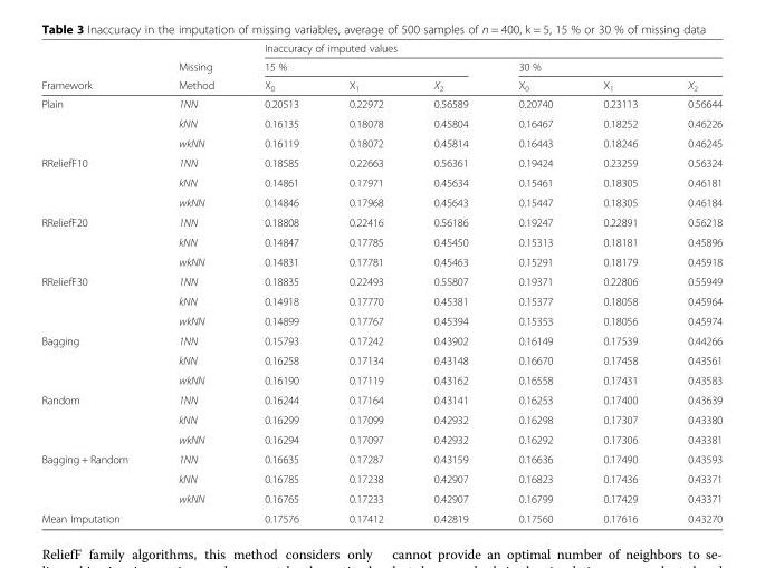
<table><thead><tr><td rowspan="3">Framework</td><td rowspan="3">Missing Method</td><td colspan="6">Inaccuracy of imputed values</td></tr><tr><td colspan="3">15 %</td><td colspan="3">30 %</td></tr><tr><td>X<sub>0</sub></td><td>X<sub>1</sub></td><td>X<sub>2</sub></td><td>X<sub>0</sub></td><td>X<sub>1</sub></td><td>X<sub>2</sub></td></tr></thead><tbody><tr><td rowspan="3">Plain</td><td>1NN</td><td>0.20513</td><td>0.22972</td><td>0.56589</td><td>0.20740</td><td>0.23113</td><td>0.56644</td></tr><tr><td>kNN</td><td>0.16135</td><td>0.18078</td><td>0.45804</td><td>0.16467</td><td>0.18252</td><td>0.46226</td></tr><tr><td>wkNN</td><td>0.16119</td><td>0.18072</td><td>0.45814</td><td>0.16443</td><td>0.18246</td><td>0.46245</td></tr><tr><td rowspan="3">RReliefF10</td><td>1NN</td><td>0.18585</td><td>0.22663</td><td>0.56361</td><td>0.19424</td><td>0.23259</td><td>0.56324</td></tr><tr><td>kNN</td><td>0.14861</td><td>0.17971</td><td>0.45634</td><td>0.15461</td><td>0.18305</td><td>0.46181</td></tr><tr><td>wkNN</td><td>0.14846</td><td>0.17968</td><td>0.45643</td><td>0.15447</td><td>0.18305</td><td>0.46184</td></tr><tr><td rowspan="3">RReliefF20</td><td>1NN</td><td>0.18808</td><td>0.22416</td><td>0.56186</td><td>0.19247</td><td>0.22891</td><td>0.56218</td></tr><tr><td>kNN</td><td>0.14847</td><td>0.17785</td><td>0.45450</td><td>0.15313</td><td>0.18181</td><td>0.45896</td></tr><tr><td>wkNN</td><td>0.14831</td><td>0.17781</td><td>0.45463</td><td>0.15291</td><td>0.18179</td><td>0.45918</td></tr><tr><td rowspan="3">RReliefF30</td><td>1NN</td><td>0.18835</td><td>0.22493</td><td>0.55807</td><td>0.19371</td><td>0.22806</td><td>0.55949</td></tr><tr><td>kNN</td><td>0.14918</td><td>0.17770</td><td>0.45381</td><td>0.15377</td><td>0.18058</td><td>0.45964</td></tr><tr><td>wkNN</td><td>0.14899</td><td>0.17767</td><td>0.45394</td><td>0.15353</td><td>0.18056</td><td>0.45974</td></tr><tr><td rowspan="3">Bagging</td><td>1NN</td><td>0.15793</td><td>0.17242</td><td>0.43902</td><td>0.16149</td><td>0.17539</td><td>0.44266</td></tr><tr><td>kNN</td><td>0.16258</td><td>0.17134</td><td>0.43148</td><td>0.16670</td><td>0.17458</td><td>0.43561</td></tr><tr><td>wkNN</td><td>0.16190</td><td>0.17119</td><td>0.43162</td><td>0.16558</td><td>0.17431</td><td>0.43583</td></tr><tr><td rowspan="3">Random</td><td>1NN</td><td>0.16244</td><td>0.17164</td><td>0.43141</td><td>0.16253</td><td>0.17400</td><td>0.43639</td></tr><tr><td>kNN</td><td>0.16299</td><td>0.17099</td><td>0.42932</td><td>0.16298</td><td>0.17307</td><td>0.43380</td></tr><tr><td>wkNN</td><td>0.16294</td><td>0.17097</td><td>0.42932</td><td>0.16292</td><td>0.17306</td><td>0.43381</td></tr><tr><td rowspan="3">Bagging + Random</td><td>1NN</td><td>0.16635</td><td>0.17287</td><td>0.43159</td><td>0.16636</td><td>0.17490</td><td>0.43593</td></tr><tr><td>kNN</td><td>0.16785</td><td>0.17238</td><td>0.42907</td><td>0.16823</td><td>0.17436</td><td>0.43371</td></tr><tr><td>wkNN</td><td>0.16765</td><td>0.17233</td><td>0.42907</td><td>0.16799</td><td>0.17429</td><td>0.43371</td></tr><tr><td>Mean Imputation</td><td></td><td>0.17576</td><td>0.17412</td><td>0.42819</td><td>0.17560</td><td>0.17616</td><td>0.43270</td></tr></tbody></table>